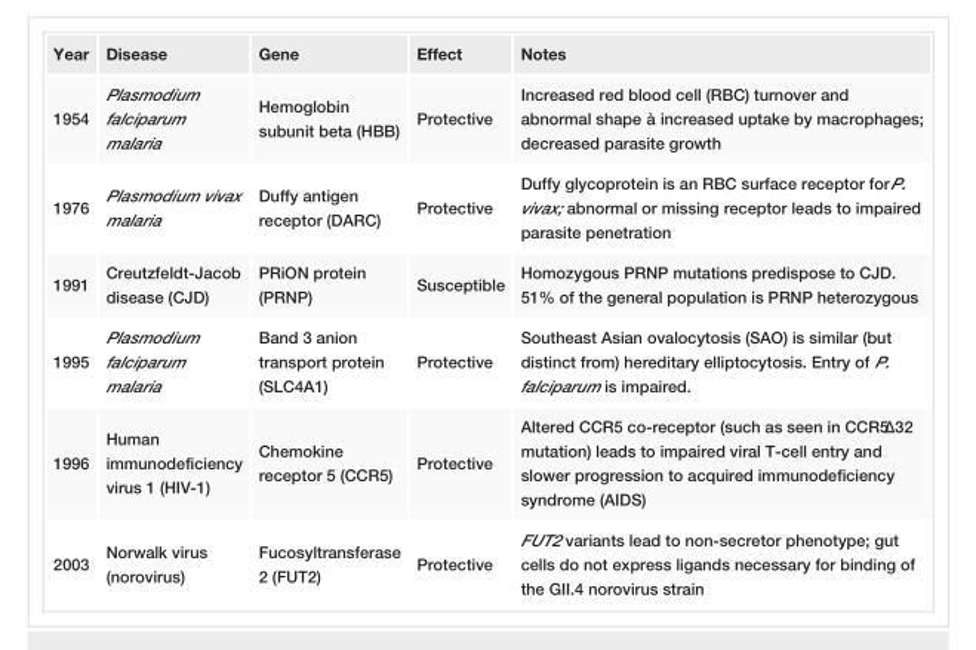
<table><tbody><tr><td>Year</td><td>Disease</td><td>Gene</td><td>Effect</td><td>Notes</td></tr><tr><td>1954</td><td>Plasmodium falciparum malaria</td><td>Hemoglobin subunit beta (HBB)</td><td>Protective</td><td>Increased red blood cell (RBC) turnover and abnormal shape à increased uptake by macrophages; decreased parasite growth</td></tr><tr><td>1976</td><td>Plasmodium vivax malaria</td><td>Duffy antigen receptor (DARC)</td><td>Protective</td><td>Duffy glycoprotein is an RBC surface receptor for P. vivax; abnormal or missing receptor leads to impaired parasite penetration</td></tr><tr><td>1991</td><td>Creutzfeldt-Jacob disease (CJD)</td><td>PRiON protein (PRNP)</td><td>Susceptible</td><td>Homozygous PRNP mutations predispose to CJD. 51% of the general population is PRNP heterozygous</td></tr><tr><td>1995</td><td>Plasmodium falciparum malaria</td><td>Band 3 anion transport protein (SLC4A1)</td><td>Protective</td><td>Southeast Asian ovalocytosis (SAO) is similar (but distinct from) hereditary elliptocytosis. Entry of P. falciparum is impaired.</td></tr><tr><td>1996</td><td>Human immunodeficiency virus 1 (HIV-1)</td><td>Chemokine receptor 5 (CCR5)</td><td>Protective</td><td>Altered CCR5 co-receptor (such as seen in CCR5Δ32 mutation) leads to impaired viral T-cell entry and slower progression to acquired immunodeficiency syndrome (AIDS)</td></tr><tr><td>2003</td><td>Norwalk virus (norovirus)</td><td>Fucosyltransferase 2 (FUT2)</td><td>Protective</td><td>FUT2 variants lead to non-secretor phenotype; gut cells do not express ligands necessary for binding of the GII.4 norovirus strain</td></tr></tbody></table>